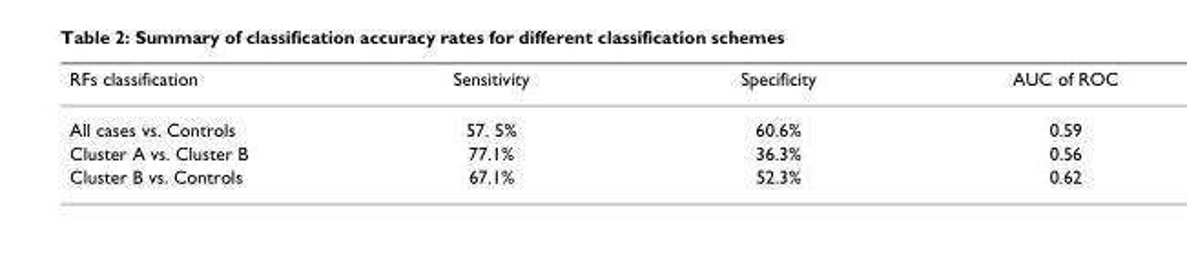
<table><thead><tr><td>RFs classification</td><td>Sensitivity</td><td>Specificity</td><td>AUC of ROC</td></tr></thead><tbody><tr><td>All cases vs. Controls</td><td>57. 5%</td><td>60.6%</td><td>0.59</td></tr><tr><td>Cluster A vs. Cluster B</td><td>77.1%</td><td>36.3%</td><td>0.56</td></tr><tr><td>Cluster B vs. Controls</td><td>67.1%</td><td>52.3%</td><td>0.62</td></tr></tbody></table>